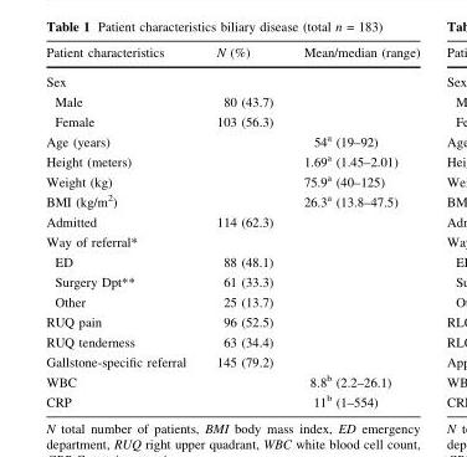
<table><thead><tr><td>Patient characteristics</td><td>N (%)</td><td>Mean/median (range)</td></tr></thead><tbody><tr><td colspan="3">Sex</td></tr><tr><td>Male</td><td>80 (43.7)</td><td></td></tr><tr><td>Female</td><td>103 (56.3)</td><td></td></tr><tr><td>Age (years)</td><td></td><td>54<sup>a</sup> (19–92)</td></tr><tr><td>Height (meters)</td><td></td><td>1.69<sup>a</sup> (1.45–2.01)</td></tr><tr><td>Weight (kg)</td><td></td><td>75.9<sup>a</sup> (40–125)</td></tr><tr><td>BMI (kg/m<sup>2</sup>)</td><td></td><td>26.3<sup>a</sup> (13.8–47.5)</td></tr><tr><td>Admitted</td><td>114 (62.3)</td><td></td></tr><tr><td colspan="3">Way of referral*</td></tr><tr><td>ED</td><td>88 (48.1)</td><td></td></tr><tr><td>Surgery Dpt**</td><td>61 (33.3)</td><td></td></tr><tr><td>Other</td><td>25 (13.7)</td><td></td></tr><tr><td>RUQ pain</td><td>96 (52.5)</td><td></td></tr><tr><td>RUQ tenderness</td><td>63 (34.4)</td><td></td></tr><tr><td>Gallstone-specific referral</td><td>145 (79.2)</td><td></td></tr><tr><td>WBC</td><td></td><td>8.8<sup>b</sup> (2.2–26.1)</td></tr><tr><td>CRP</td><td></td><td>11<sup>b</sup> (1–554)</td></tr></tbody></table>